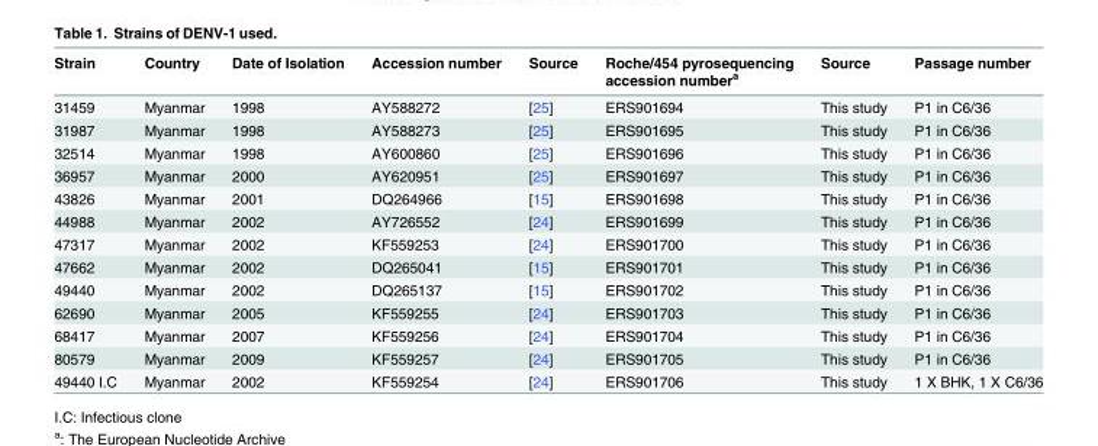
<table><thead><tr><td>Strain</td><td>Country</td><td>Date of Isolation</td><td>Accession number</td><td>Source</td><td>Roche/454 pyrosequencing accession number<sup>a</sup></td><td>Source</td><td>Passage number</td></tr></thead><tbody><tr><td>31459</td><td>Myanmar</td><td>1998</td><td>AY588272</td><td>[25]</td><td>ERS901694</td><td>This study</td><td>P1 in C6/36</td></tr><tr><td>31987</td><td>Myanmar</td><td>1998</td><td>AY588273</td><td>[25]</td><td>ERS901695</td><td>This study</td><td>P1 in C6/36</td></tr><tr><td>32514</td><td>Myanmar</td><td>1998</td><td>AY600860</td><td>[25]</td><td>ERS901696</td><td>This study</td><td>P1 in C6/36</td></tr><tr><td>36957</td><td>Myanmar</td><td>2000</td><td>AY620951</td><td>[25]</td><td>ERS901697</td><td>This study</td><td>P1 in C6/36</td></tr><tr><td>43826</td><td>Myanmar</td><td>2001</td><td>DQ264966</td><td>[15]</td><td>ERS901698</td><td>This study</td><td>P1 in C6/36</td></tr><tr><td>44988</td><td>Myanmar</td><td>2002</td><td>AY726552</td><td>[24]</td><td>ERS901699</td><td>This study</td><td>P1 in C6/36</td></tr><tr><td>47317</td><td>Myanmar</td><td>2002</td><td>KF559253</td><td>[24]</td><td>ERS901700</td><td>This study</td><td>P1 in C6/36</td></tr><tr><td>47662</td><td>Myanmar</td><td>2002</td><td>DQ265041</td><td>[15]</td><td>ERS901701</td><td>This study</td><td>P1 in C6/36</td></tr><tr><td>49440</td><td>Myanmar</td><td>2002</td><td>DQ265137</td><td>[15]</td><td>ERS901702</td><td>This study</td><td>P1 in C6/36</td></tr><tr><td>62690</td><td>Myanmar</td><td>2005</td><td>KF559255</td><td>[24]</td><td>ERS901703</td><td>This study</td><td>P1 in C6/36</td></tr><tr><td>68417</td><td>Myanmar</td><td>2007</td><td>KF559256</td><td>[24]</td><td>ERS901704</td><td>This study</td><td>P1 in C6/36</td></tr><tr><td>80579</td><td>Myanmar</td><td>2009</td><td>KF559257</td><td>[24]</td><td>ERS901705</td><td>This study</td><td>P1 in C6/36</td></tr><tr><td>49440 I.C</td><td>Myanmar</td><td>2002</td><td>KF559254</td><td>[24]</td><td>ERS901706</td><td>This study</td><td>1 X BHK, 1 X C6/36</td></tr></tbody></table>